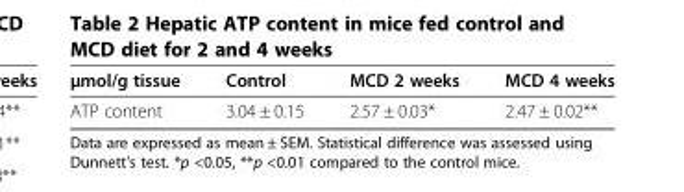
<table><thead><tr><td>μmol/g tissue</td><td>Control</td><td>MCD 2 weeks</td><td>MCD 4 weeks</td></tr></thead><tbody><tr><td>ATP content</td><td>3.04 ± 0.15</td><td>2.57 ± 0.03*</td><td>2.47 ± 0.02**</td></tr></tbody></table>